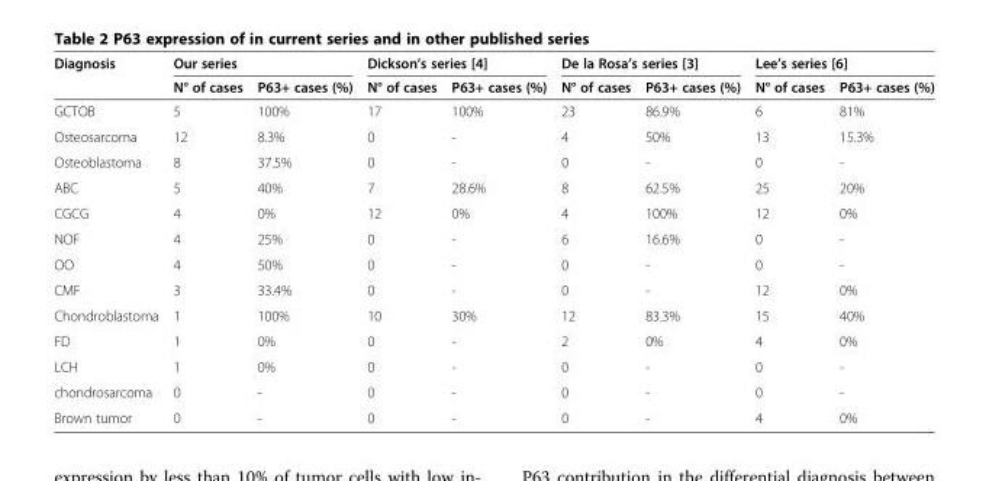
<table><thead><tr><td rowspan="2">Diagnosis</td><td colspan="2">Our series</td><td colspan="2">Dickson’s series [4]</td><td colspan="2">De la Rosa’s series [3]</td><td colspan="2">Lee’s series [6]</td></tr><tr><td>N° of cases</td><td>P63+ cases (%)</td><td>N° of cases</td><td>P63+ cases (%)</td><td>N° of cases</td><td>P63+ cases (%)</td><td>N° of cases</td><td>P63+ cases (%)</td></tr></thead><tbody><tr><td>GCTOB</td><td>5</td><td>100%</td><td>17</td><td>100%</td><td>23</td><td>86.9%</td><td>6</td><td>81%</td></tr><tr><td>Osteosarcoma</td><td>12</td><td>8.3%</td><td>0</td><td>-</td><td>4</td><td>50%</td><td>13</td><td>15.3%</td></tr><tr><td>Osteoblastoma</td><td>8</td><td>37.5%</td><td>0</td><td>-</td><td>0</td><td>-</td><td>0</td><td>-</td></tr><tr><td>ABC</td><td>5</td><td>40%</td><td>7</td><td>28.6%</td><td>8</td><td>62.5%</td><td>25</td><td>20%</td></tr><tr><td>CGCG</td><td>4</td><td>0%</td><td>12</td><td>0%</td><td>4</td><td>100%</td><td>12</td><td>0%</td></tr><tr><td>NOF</td><td>4</td><td>25%</td><td>0</td><td>-</td><td>6</td><td>16.6%</td><td>0</td><td>-</td></tr><tr><td>OO</td><td>4</td><td>50%</td><td>0</td><td>-</td><td>0</td><td>-</td><td>0</td><td>-</td></tr><tr><td>CMF</td><td>3</td><td>33.4%</td><td>0</td><td>-</td><td>0</td><td>-</td><td>12</td><td>0%</td></tr><tr><td>Chondroblastoma</td><td>1</td><td>100%</td><td>10</td><td>30%</td><td>12</td><td>83.3%</td><td>15</td><td>40%</td></tr><tr><td>FD</td><td>1</td><td>0%</td><td>0</td><td>-</td><td>2</td><td>0%</td><td>4</td><td>0%</td></tr><tr><td>LCH</td><td>1</td><td>0%</td><td>0</td><td>-</td><td>0</td><td>-</td><td>0</td><td>-</td></tr><tr><td>chondrosarcoma</td><td>0</td><td>-</td><td>0</td><td>-</td><td>0</td><td>-</td><td>0</td><td>-</td></tr><tr><td>Brown tumor</td><td>0</td><td>-</td><td>0</td><td>-</td><td>0</td><td>-</td><td>4</td><td>0%</td></tr></tbody></table>